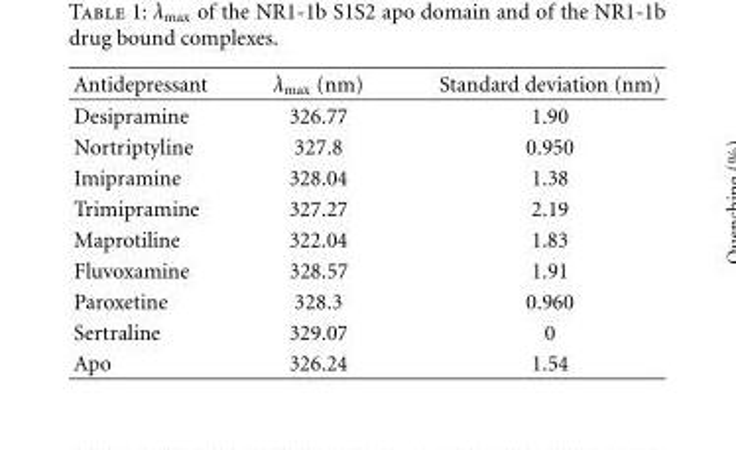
<table><thead><tr><td>Antidepressant</td><td>λ<sub>max</sub> (nm)</td><td>Standard deviation (nm)</td></tr></thead><tbody><tr><td>Desipramine</td><td>326.77</td><td>1.90</td></tr><tr><td>Nortriptyline</td><td>327.8</td><td>0.950</td></tr><tr><td>Imipramine</td><td>328.04</td><td>1.38</td></tr><tr><td>Trimipramine</td><td>327.27</td><td>2.19</td></tr><tr><td>Maprotiline</td><td>322.04</td><td>1.83</td></tr><tr><td>Fluvoxamine</td><td>328.57</td><td>1.91</td></tr><tr><td>Paroxetine</td><td>328.3</td><td>0.960</td></tr><tr><td>Sertraline</td><td>329.07</td><td>0</td></tr><tr><td>Apo</td><td>326.24</td><td>1.54</td></tr></tbody></table>